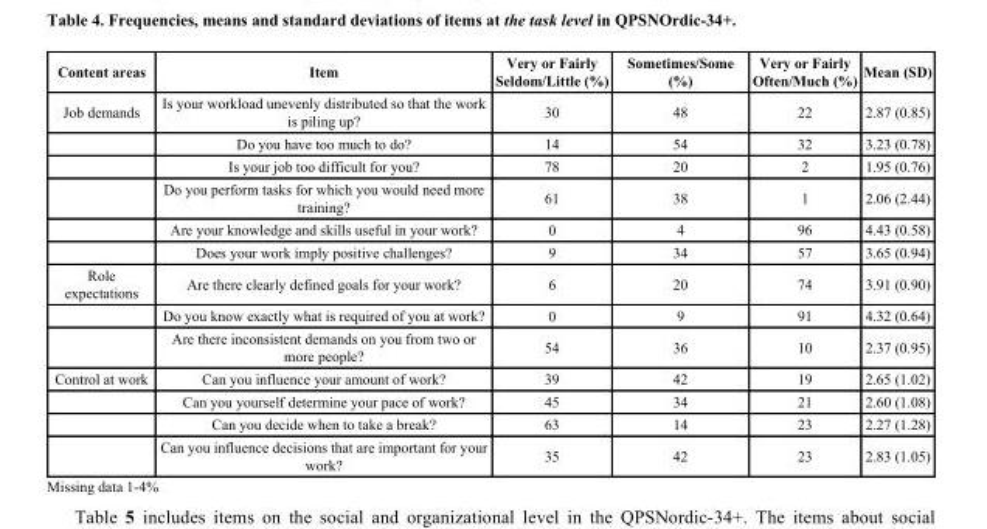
<table><thead><tr><td>Content areas</td><td>Item</td><td>Very or Fairly Seldom/Little (%)</td><td>Sometimes/Some (%)</td><td>Very or Fairly Often/Much (%)</td><td>Mean (SD)</td></tr></thead><tbody><tr><td rowspan="6">Job demands</td><td>Is your workload unevenly distributed so that the work is piling up?</td><td>30</td><td>48</td><td>22</td><td>2.87 (0.85)</td></tr><tr><td>Do you have too much to do?</td><td>14</td><td>54</td><td>32</td><td>3.23 (0.78)</td></tr><tr><td>Is your job too difficult for you?</td><td>78</td><td>20</td><td>2</td><td>1.95 (0.76)</td></tr><tr><td>Do you perform tasks for which you would need more training?</td><td>61</td><td>38</td><td>1</td><td>2.06 (2.44)</td></tr><tr><td>Are your knowledge and skills useful in your work?</td><td>0</td><td>4</td><td>96</td><td>4.43 (0.58)</td></tr><tr><td>Does your work imply positive challenges?</td><td>9</td><td>34</td><td>57</td><td>3.65 (0.94)</td></tr><tr><td rowspan="3">Role expectations</td><td>Are there clearly defined goals for your work?</td><td>6</td><td>20</td><td>74</td><td>3.91 (0.90)</td></tr><tr><td>Do you know exactly what is required of you at work?</td><td>0</td><td>9</td><td>91</td><td>4.32 (0.64)</td></tr><tr><td>Are there inconsistent demands on you from two or more people?</td><td>54</td><td>36</td><td>10</td><td>2.37 (0.95)</td></tr><tr><td rowspan="4">Control at work</td><td>Can you influence your amount of work?</td><td>39</td><td>42</td><td>19</td><td>2.65 (1.02)</td></tr><tr><td>Can you yourself determine your pace of work?</td><td>45</td><td>34</td><td>21</td><td>2.60 (1.08)</td></tr><tr><td>Can you decide when to take a break?</td><td>63</td><td>14</td><td>23</td><td>2.27 (1.28)</td></tr><tr><td>Can you influence decisions that are important for your work?</td><td>35</td><td>42</td><td>23</td><td>2.83 (1.05)</td></tr></tbody></table>